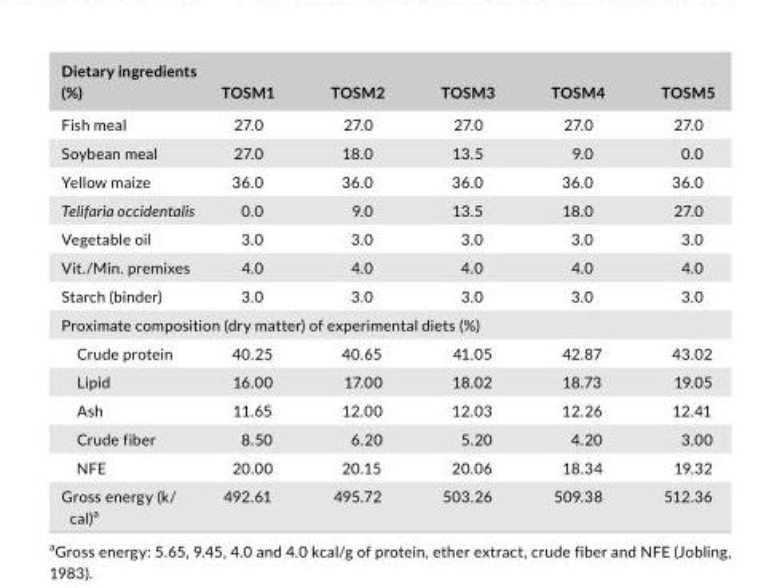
<table><thead><tr><td>Dietary ingredients (%)</td><td>TOSM1</td><td>TOSM2</td><td>TOSM3</td><td>TOSM4</td><td>TOSM5</td></tr></thead><tbody><tr><td>Fish meal</td><td>27.0</td><td>27.0</td><td>27.0</td><td>27.0</td><td>27.0</td></tr><tr><td>Soybean meal</td><td>27.0</td><td>18.0</td><td>13.5</td><td>9.0</td><td>0.0</td></tr><tr><td>Yellow maize</td><td>36.0</td><td>36.0</td><td>36.0</td><td>36.0</td><td>36.0</td></tr><tr><td>Telifaria occidentalis</td><td>0.0</td><td>9.0</td><td>13.5</td><td>18.0</td><td>27.0</td></tr><tr><td>Vegetable oil</td><td>3.0</td><td>3.0</td><td>3.0</td><td>3.0</td><td>3.0</td></tr><tr><td>Vit./Min. premixes</td><td>4.0</td><td>4.0</td><td>4.0</td><td>4.0</td><td>4.0</td></tr><tr><td>Starch (binder)</td><td>3.0</td><td>3.0</td><td>3.0</td><td>3.0</td><td>3.0</td></tr><tr><td colspan="6">Proximate composition (dry matter) of experimental diets (%)</td></tr><tr><td>Crude protein</td><td>40.25</td><td>40.65</td><td>41.05</td><td>42.87</td><td>43.02</td></tr><tr><td>Lipid</td><td>16.00</td><td>17.00</td><td>18.02</td><td>18.73</td><td>19.05</td></tr><tr><td>Ash</td><td>11.65</td><td>12.00</td><td>12.03</td><td>12.26</td><td>12.41</td></tr><tr><td>Crude fiber</td><td>8.50</td><td>6.20</td><td>5.20</td><td>4.20</td><td>3.00</td></tr><tr><td>NFE</td><td>20.00</td><td>20.15</td><td>20.06</td><td>18.34</td><td>19.32</td></tr><tr><td>Gross energy (k/ cal)<sup>a</sup></td><td>492.61</td><td>495.72</td><td>503.26</td><td>509.38</td><td>512.36</td></tr></tbody></table>